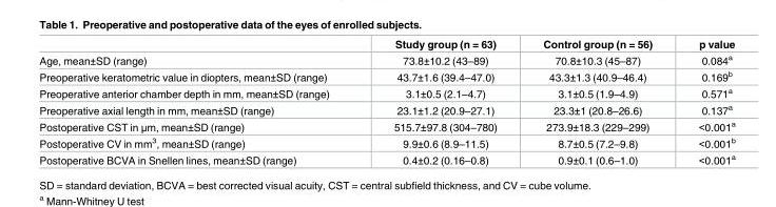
<table><thead><tr><td></td><td>Study group (n = 63)</td><td>Control group (n = 56)</td><td>p value</td></tr></thead><tbody><tr><td>Age, mean±SD (range)</td><td>73.8±10.2 (43–89)</td><td>70.8±10.3 (45–87)</td><td>0.084<sup>a</sup></td></tr><tr><td>Preoperative keratometric value in diopters, mean±SD (range)</td><td>43.7±1.6 (39.4–47.0)</td><td>43.3±1.3 (40.9–46.4)</td><td>0.169<sup>b</sup></td></tr><tr><td>Preoperative anterior chamber depth in mm, mean±SD (range)</td><td>3.1±0.5 (2.1–4.7)</td><td>3.1±0.5 (1.9–4.9)</td><td>0.571<sup>a</sup></td></tr><tr><td>Preoperative axial length in mm, mean±SD (range)</td><td>23.1±1.2 (20.9–27.1)</td><td>23.3±1 (20.8–26.6)</td><td>0.137<sup>a</sup></td></tr><tr><td>Postoperative CST in μm, mean±SD (range)</td><td>515.7±97.8 (304–780)</td><td>273.9±18.3 (229–299)</td><td>&lt;0.001<sup>a</sup></td></tr><tr><td>Postoperative CV in mm<sup>3</sup>, mean±SD (range)</td><td>9.9±0.6 (8.9–11.5)</td><td>8.7±0.5 (7.2–9.8)</td><td>&lt;0.001<sup>b</sup></td></tr><tr><td>Postoperative BCVA in Snellen lines, mean±SD (range)</td><td>0.4±0.2 (0.16–0.8)</td><td>0.9±0.1 (0.6–1.0)</td><td>&lt;0.001<sup>a</sup></td></tr></tbody></table>